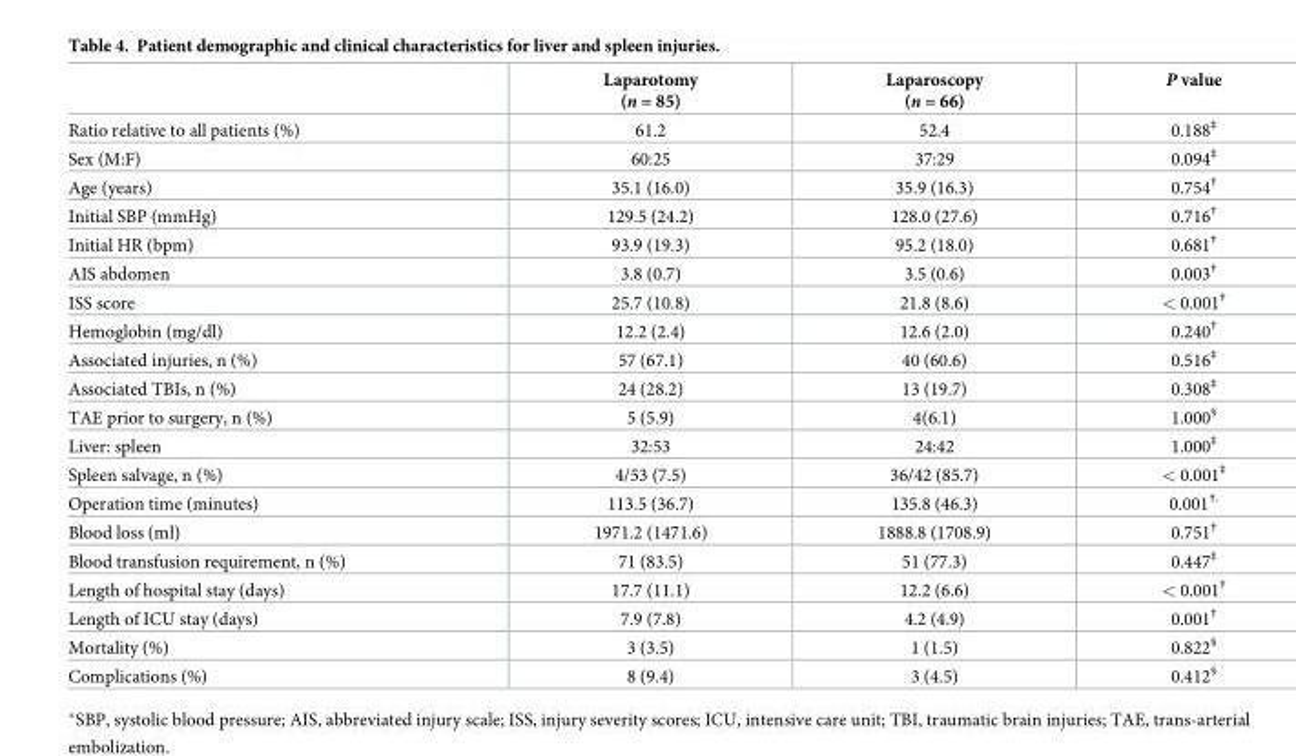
<table><thead><tr><td></td><td>Laparotomy (n = 85)</td><td>Laparoscopy (n = 66)</td><td>P value</td></tr></thead><tbody><tr><td>Ratio relative to all patients (%)</td><td>61.2</td><td>52.4</td><td>0.188<sup>‡</sup></td></tr><tr><td>Sex (M:F)</td><td>60:25</td><td>37:29</td><td>0.094<sup>‡</sup></td></tr><tr><td>Age (years)</td><td>35.1 (16.0)</td><td>35.9 (16.3)</td><td>0.754<sup>†</sup></td></tr><tr><td>Initial SBP (mmHg)</td><td>129.5 (24.2)</td><td>128.0 (27.6)</td><td>0.716<sup>†</sup></td></tr><tr><td>Initial HR (bpm)</td><td>93.9 (19.3)</td><td>95.2 (18.0)</td><td>0.681<sup>†</sup></td></tr><tr><td>AIS abdomen</td><td>3.8 (0.7)</td><td>3.5 (0.6)</td><td>0.003<sup>†</sup></td></tr><tr><td>ISS score</td><td>25.7 (10.8)</td><td>21.8 (8.6)</td><td>&lt; 0.001<sup>†</sup></td></tr><tr><td>Hemoglobin (mg/dl)</td><td>12.2 (2.4)</td><td>12.6 (2.0)</td><td>0.240<sup>†</sup></td></tr><tr><td>Associated injuries, n (%)</td><td>57 (67.1)</td><td>40 (60.6)</td><td>0.516<sup>‡</sup></td></tr><tr><td>Associated TBIs, n (%)</td><td>24 (28.2)</td><td>13 (19.7)</td><td>0.308<sup>‡</sup></td></tr><tr><td>TAE prior to surgery, n (%)</td><td>5 (5.9)</td><td>4(6.1)</td><td>1.000<sup>§</sup></td></tr><tr><td>Liver: spleen</td><td>32:53</td><td>24:42</td><td>1.000<sup>‡</sup></td></tr><tr><td>Spleen salvage, n (%)</td><td>4/53 (7.5)</td><td>36/42 (85.7)</td><td>&lt; 0.001<sup>‡</sup></td></tr><tr><td>Operation time (minutes)</td><td>113.5 (36.7)</td><td>135.8 (46.3)</td><td>0.001<sup>†.</sup></td></tr><tr><td>Blood loss (ml)</td><td>1971.2 (1471.6)</td><td>1888.8 (1708.9)</td><td>0.751<sup>†</sup></td></tr><tr><td>Blood transfusion requirement, n (%)</td><td>71 (83.5)</td><td>51 (77.3)</td><td>0.447<sup>‡</sup></td></tr><tr><td>Length of hospital stay (days)</td><td>17.7 (11.1)</td><td>12.2 (6.6)</td><td>&lt; 0.001<sup>†</sup></td></tr><tr><td>Length of ICU stay (days)</td><td>7.9 (7.8)</td><td>4.2 (4.9)</td><td>0.001<sup>†</sup></td></tr><tr><td>Mortality (%)</td><td>3 (3.5)</td><td>1 (1.5)</td><td>0.822<sup>§</sup></td></tr><tr><td>Complications (%)</td><td>8 (9.4)</td><td>3 (4.5)</td><td>0.412<sup>§</sup></td></tr></tbody></table>